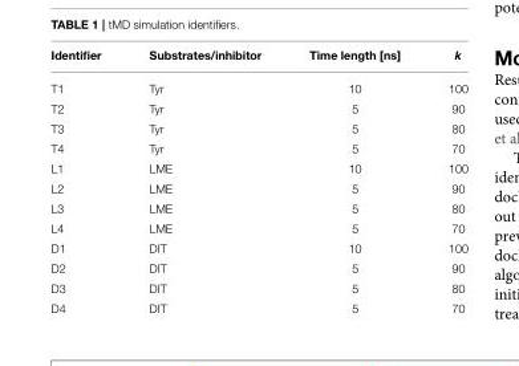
<table><thead><tr><td>Identifier</td><td>Substrates/inhibitor</td><td>Time length [ns]</td><td>k</td></tr></thead><tbody><tr><td>T1</td><td>Tyr</td><td>10</td><td>100</td></tr><tr><td>T2</td><td>Tyr</td><td>5</td><td>90</td></tr><tr><td>T3</td><td>Tyr</td><td>5</td><td>80</td></tr><tr><td>T4</td><td>Tyr</td><td>5</td><td>70</td></tr><tr><td>L1</td><td>LME</td><td>10</td><td>100</td></tr><tr><td>L2</td><td>LME</td><td>5</td><td>90</td></tr><tr><td>L3</td><td>LME</td><td>5</td><td>80</td></tr><tr><td>L4</td><td>LME</td><td>5</td><td>70</td></tr><tr><td>D1</td><td>DIT</td><td>10</td><td>100</td></tr><tr><td>D2</td><td>DIT</td><td>5</td><td>90</td></tr><tr><td>D3</td><td>DIT</td><td>5</td><td>80</td></tr><tr><td>D4</td><td>DIT</td><td>5</td><td>70</td></tr></tbody></table>